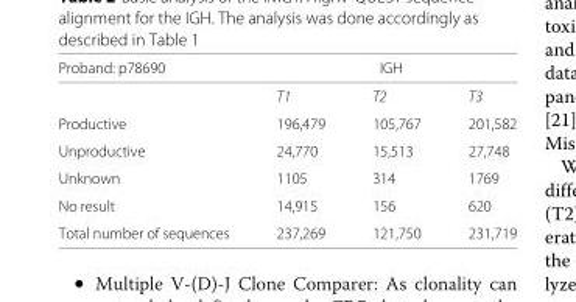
<table><thead><tr><td rowspan="2">Proband: p78690</td><td colspan="3">IGH</td></tr><tr><td>T1</td><td>T2</td><td>T3</td></tr></thead><tbody><tr><td>Productive</td><td>196,479</td><td>105,767</td><td>201,582</td></tr><tr><td>Unproductive</td><td>24,770</td><td>15,513</td><td>27,748</td></tr><tr><td>Unknown</td><td>1105</td><td>314</td><td>1769</td></tr><tr><td>No result</td><td>14,915</td><td>156</td><td>620</td></tr><tr><td>Total number of sequences</td><td>237,269</td><td>121,750</td><td>231,719</td></tr></tbody></table>